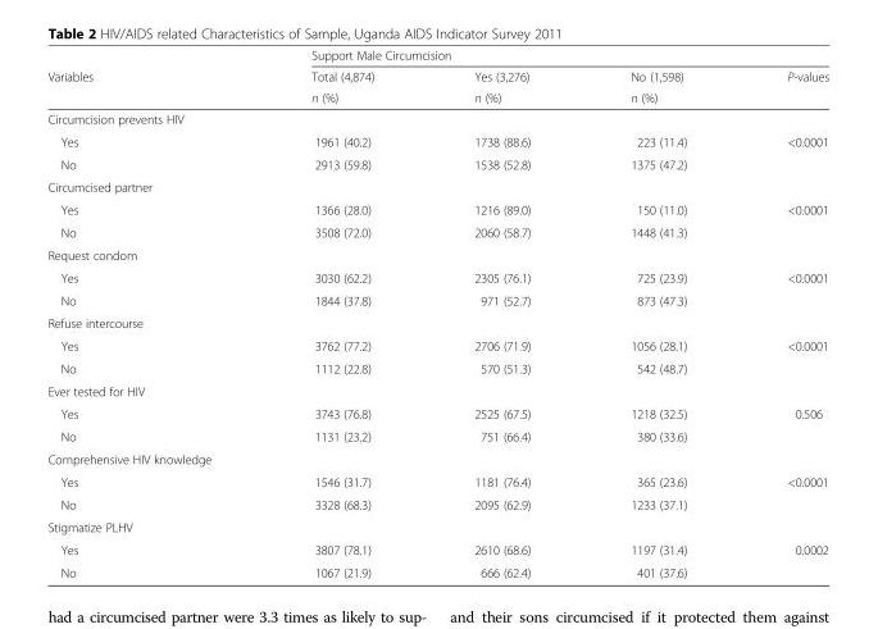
<table><thead><tr><td rowspan="3">Variables</td><td colspan="4">Support Male Circumcision</td></tr><tr><td rowspan="2">Total (4,874) n (%)</td><td rowspan="2">Yes (3,276) n (%)</td><td rowspan="2">No (1,598) n (%)</td><td rowspan="2">P-values</td></tr><tr></tr></thead><tbody><tr><td colspan="5">Circumcision prevents HIV</td></tr><tr><td>Yes</td><td>1961 (40.2)</td><td>1738 (88.6)</td><td>223 (11.4)</td><td>&lt;0.0001</td></tr><tr><td>No</td><td>2913 (59.8)</td><td>1538 (52.8)</td><td>1375 (47.2)</td><td></td></tr><tr><td colspan="5">Circumcised partner</td></tr><tr><td>Yes</td><td>1366 (28.0)</td><td>1216 (89.0)</td><td>150 (11.0)</td><td>&lt;0.0001</td></tr><tr><td>No</td><td>3508 (72.0)</td><td>2060 (58.7)</td><td>1448 (41.3)</td><td></td></tr><tr><td colspan="5">Request condom</td></tr><tr><td>Yes</td><td>3030 (62.2)</td><td>2305 (76.1)</td><td>725 (23.9)</td><td>&lt;0.0001</td></tr><tr><td>No</td><td>1844 (37.8)</td><td>971 (52.7)</td><td>873 (47.3)</td><td></td></tr><tr><td colspan="5">Refuse intercourse</td></tr><tr><td>Yes</td><td>3762 (77.2)</td><td>2706 (71.9)</td><td>1056 (28.1)</td><td>&lt;0.0001</td></tr><tr><td>No</td><td>1112 (22.8)</td><td>570 (51.3)</td><td>542 (48.7)</td><td></td></tr><tr><td colspan="5">Ever tested for HIV</td></tr><tr><td>Yes</td><td>3743 (76.8)</td><td>2525 (67.5)</td><td>1218 (32.5)</td><td>0.506</td></tr><tr><td>No</td><td>1131 (23.2)</td><td>751 (66.4)</td><td>380 (33.6)</td><td></td></tr><tr><td colspan="5">Comprehensive HIV knowledge</td></tr><tr><td>Yes</td><td>1546 (31.7)</td><td>1181 (76.4)</td><td>365 (23.6)</td><td>&lt;0.0001</td></tr><tr><td>No</td><td>3328 (68.3)</td><td>2095 (62.9)</td><td>1233 (37.1)</td><td></td></tr><tr><td colspan="5">Stigmatize PLHV</td></tr><tr><td>Yes</td><td>3807 (78.1)</td><td>2610 (68.6)</td><td>1197 (31.4)</td><td>0.0002</td></tr><tr><td>No</td><td>1067 (21.9)</td><td>666 (62.4)</td><td>401 (37.6)</td><td></td></tr></tbody></table>